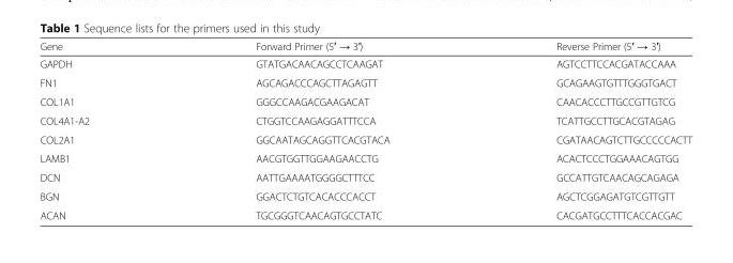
<table><thead><tr><td>Gene</td><td>Forward Primer (5′ → 3′)</td><td>Reverse Primer (5′ → 3′)</td></tr></thead><tbody><tr><td>GAPDH</td><td>GTATGACAACAGCCTCAAGAT</td><td>AGTCCTTCCACGATACCAAA</td></tr><tr><td>FN1</td><td>AGCAGACCCAGCTTAGAGTT</td><td>GCAGAAGTGTTTGGGTGACT</td></tr><tr><td>COL1A1</td><td>GGGCCAAGACGAAGACAT</td><td>CAACACCCTTGCCGTTGTCG</td></tr><tr><td>COL4A1-A2</td><td>CTGGTCCAAGAGGATTTCCA</td><td>TCATTGCCTTGCACGTAGAG</td></tr><tr><td>COL2A1</td><td>GGCAATAGCAGGTTCACGTACA</td><td>CGATAACAGTCTTGCCCCCACTT</td></tr><tr><td>LAMB1</td><td>AACGTGGTTGGAAGAACCTG</td><td>ACACTCCCTGGAAACAGTGG</td></tr><tr><td>DCN</td><td>AATTGAAAATGGGGCTTTCC</td><td>GCCATTGTCAACAGCAGAGA</td></tr><tr><td>BGN</td><td>GGACTCTGTCACACCCACCT</td><td>AGCTCGGAGATGTCGTTGTT</td></tr><tr><td>ACAN</td><td>TGCGGGTCAACAGTGCCTATC</td><td>CACGATGCCTTTCACCACGAC</td></tr></tbody></table>